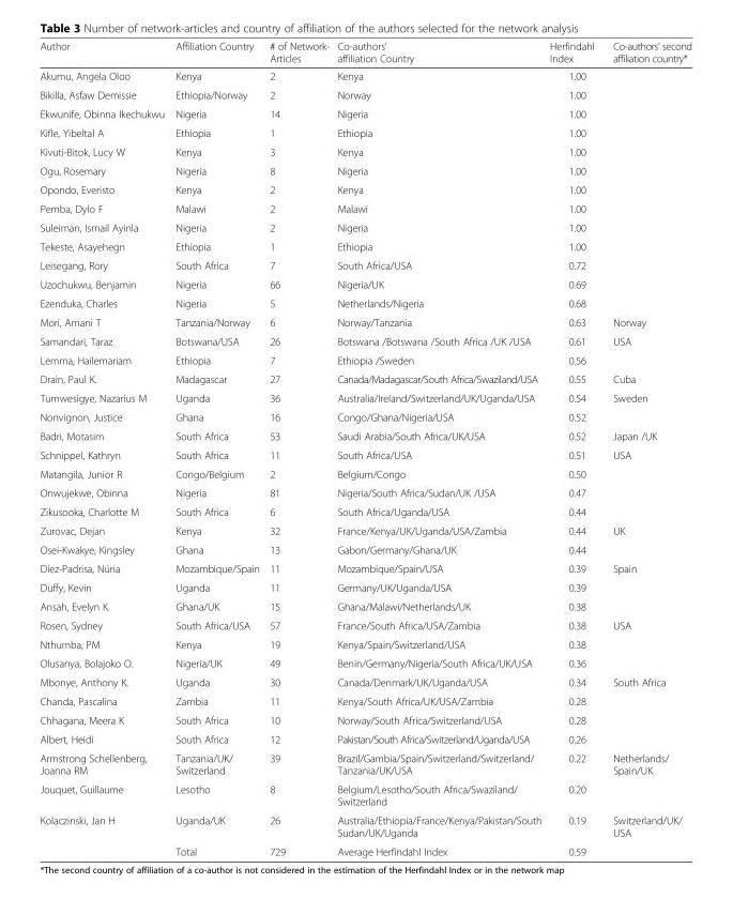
<table><thead><tr><td>Author</td><td>Affiliation Country</td><td># of Network- Articles</td><td>Co-authors’ affiliation Country</td><td>Herfindahl Index</td><td>Co-authors’ second affiliation country*</td></tr></thead><tbody><tr><td>Akumu, Angela Oloo</td><td>Kenya</td><td>2</td><td>Kenya</td><td>1.00</td><td></td></tr><tr><td>Bikilla, Asfaw Demissie</td><td>Ethiopia/Norway</td><td>2</td><td>Norway</td><td>1.00</td><td></td></tr><tr><td>Ekwunife, Obinna Ikechukwu</td><td>Nigeria</td><td>14</td><td>Nigeria</td><td>1.00</td><td></td></tr><tr><td>Kifle, Yibeltal A</td><td>Ethiopia</td><td>1</td><td>Ethiopia</td><td>1.00</td><td></td></tr><tr><td>Kivuti-Bitok, Lucy W</td><td>Kenya</td><td>3</td><td>Kenya</td><td>1.00</td><td></td></tr><tr><td>Ogu, Rosemary</td><td>Nigeria</td><td>8</td><td>Nigeria</td><td>1.00</td><td></td></tr><tr><td>Opondo, Everisto</td><td>Kenya</td><td>2</td><td>Kenya</td><td>1.00</td><td></td></tr><tr><td>Pemba, Dylo F</td><td>Malawi</td><td>2</td><td>Malawi</td><td>1.00</td><td></td></tr><tr><td>Suleiman, Ismail Ayinla</td><td>Nigeria</td><td>2</td><td>Nigeria</td><td>1.00</td><td></td></tr><tr><td>Tekeste, Asayehegn</td><td>Ethiopia</td><td>1</td><td>Ethiopia</td><td>1.00</td><td></td></tr><tr><td>Leisegang, Rory</td><td>South Africa</td><td>7</td><td>South Africa/USA</td><td>0.72</td><td></td></tr><tr><td>Uzochukwu, Benjamin</td><td>Nigeria</td><td>66</td><td>Nigeria/UK</td><td>0.69</td><td></td></tr><tr><td>Ezenduka, Charles</td><td>Nigeria</td><td>5</td><td>Netherlands/Nigeria</td><td>0.68</td><td></td></tr><tr><td>Mori, Amani T</td><td>Tanzania/Norway</td><td>6</td><td>Norway/Tanzania</td><td>0.63</td><td>Norway</td></tr><tr><td>Samandari, Taraz</td><td>Botswana/USA</td><td>26</td><td>Botswana /Botswana /South Africa /UK /USA</td><td>0.61</td><td>USA</td></tr><tr><td>Lemma, Hailemariam</td><td>Ethiopia</td><td>7</td><td>Ethiopia /Sweden</td><td>0.56</td><td></td></tr><tr><td>Drain, Paul K.</td><td>Madagascar</td><td>27</td><td>Canada/Madagascar/South Africa/Swaziland/USA</td><td>0.55</td><td>Cuba</td></tr><tr><td>Tumwesigye, Nazarius M</td><td>Uganda</td><td>36</td><td>Australia/Ireland/Switzerland/UK/Uganda/USA</td><td>0.54</td><td>Sweden</td></tr><tr><td>Nonvignon, Justice</td><td>Ghana</td><td>16</td><td>Congo/Ghana/Nigeria/USA</td><td>0.52</td><td></td></tr><tr><td>Badri, Motasim</td><td>South Africa</td><td>53</td><td>Saudi Arabia/South Africa/UK/USA</td><td>0.52</td><td>Japan /UK</td></tr><tr><td>Schnippel, Kathryn</td><td>South Africa</td><td>11</td><td>South Africa/USA</td><td>0.51</td><td>USA</td></tr><tr><td>Matangila, Junior R</td><td>Congo/Belgium</td><td>2</td><td>Belgium/Congo</td><td>0.50</td><td></td></tr><tr><td>Onwujekwe, Obinna</td><td>Nigeria</td><td>81</td><td>Nigeria/South Africa/Sudan/UK /USA</td><td>0.47</td><td></td></tr><tr><td>Zikusooka, Charlotte M</td><td>South Africa</td><td>6</td><td>South Africa/Uganda/USA</td><td>0.44</td><td></td></tr><tr><td>Zurovac, Dejan</td><td>Kenya</td><td>32</td><td>France/Kenya/UK/Uganda/USA/Zambia</td><td>0.44</td><td>UK</td></tr><tr><td>Osei-Kwakye, Kingsley</td><td>Ghana</td><td>13</td><td>Gabon/Germany/Ghana/UK</td><td>0.44</td><td></td></tr><tr><td>Díez-Padrisa, Núria</td><td>Mozambique/Spain</td><td>11</td><td>Mozambique/Spain/USA</td><td>0.39</td><td>Spain</td></tr><tr><td>Duffy, Kevin</td><td>Uganda</td><td>11</td><td>Germany/UK/Uganda/USA</td><td>0.39</td><td></td></tr><tr><td>Ansah, Evelyn K.</td><td>Ghana/UK</td><td>15</td><td>Ghana/Malawi/Netherlands/UK</td><td>0.38</td><td></td></tr><tr><td>Rosen, Sydney</td><td>South Africa/USA</td><td>57</td><td>France/South Africa/USA/Zambia</td><td>0.38</td><td>USA</td></tr><tr><td>Nthumba, PM</td><td>Kenya</td><td>19</td><td>Kenya/Spain/Switzerland/USA</td><td>0.38</td><td></td></tr><tr><td>Olusanya, Bolajoko O.</td><td>Nigeria/UK</td><td>49</td><td>Benin/Germany/Nigeria/South Africa/UK/USA</td><td>0.36</td><td></td></tr><tr><td>Mbonye, Anthony K.</td><td>Uganda</td><td>30</td><td>Canada/Denmark/UK/Uganda/USA</td><td>0.34</td><td>South Africa</td></tr><tr><td>Chanda, Pascalina</td><td>Zambia</td><td>11</td><td>Kenya/South Africa/UK/USA/Zambia</td><td>0.28</td><td></td></tr><tr><td>Chhagana, Meera K</td><td>South Africa</td><td>10</td><td>Norway/South Africa/Switzerland/USA</td><td>0.28</td><td></td></tr><tr><td>Albert, Heidi</td><td>South Africa</td><td>12</td><td>Pakistan/South Africa/Switzerland/Uganda/USA</td><td>0.26</td><td></td></tr><tr><td>Armstrong Schellenberg, Joanna RM</td><td>Tanzania/UK/ Switzerland</td><td>39</td><td>Brazil/Gambia/Spain/Switzerland/Switzerland/ Tanzania/UK/USA</td><td>0.22</td><td>Netherlands/ Spain/UK</td></tr><tr><td>Jouquet, Guillaume</td><td>Lesotho</td><td>8</td><td>Belgium/Lesotho/South Africa/Swaziland/ Switzerland</td><td>0.20</td><td></td></tr><tr><td rowspan="2">Kolaczinski, Jan H</td><td>Uganda/UK</td><td>26</td><td>Australia/Ethiopia/France/Kenya/Pakistan/South Sudan/UK/Uganda</td><td>0.19</td><td>Switzerland/UK/ USA</td></tr><tr><td>Total</td><td>729</td><td>Average Herfindahl Index</td><td>0.59</td><td></td></tr></tbody></table>